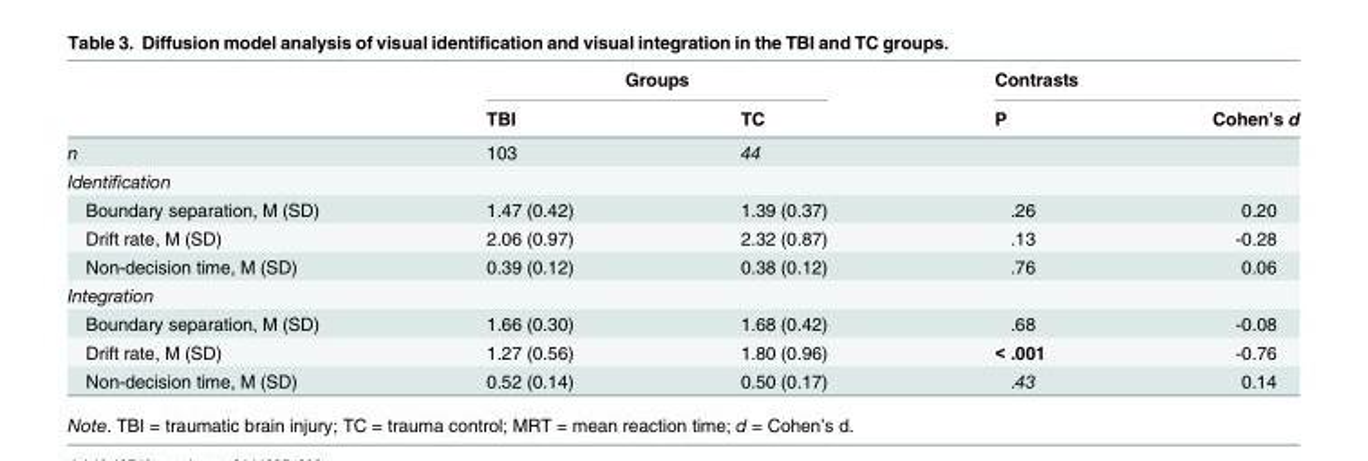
<table><thead><tr><td rowspan="2"></td><td colspan="2">Groups</td><td colspan="2">Contrasts</td></tr><tr><td>TBI</td><td>TC</td><td>P</td><td>Cohen’s d</td></tr></thead><tbody><tr><td>n</td><td>103</td><td>44</td><td></td><td></td></tr><tr><td colspan="5">Identification</td></tr><tr><td>Boundary separation, M (SD)</td><td>1.47 (0.42)</td><td>1.39 (0.37)</td><td>.26</td><td>0.20</td></tr><tr><td>Drift rate, M (SD)</td><td>2.06 (0.97)</td><td>2.32 (0.87)</td><td>.13</td><td>-0.28</td></tr><tr><td>Non-decision time, M (SD)</td><td>0.39 (0.12)</td><td>0.38 (0.12)</td><td>.76</td><td>0.06</td></tr><tr><td colspan="5">Integration</td></tr><tr><td>Boundary separation, M (SD)</td><td>1.66 (0.30)</td><td>1.68 (0.42)</td><td>.68</td><td>-0.08</td></tr><tr><td>Drift rate, M (SD)</td><td>1.27 (0.56)</td><td>1.80 (0.96)</td><td>&lt; .001</td><td>-0.76</td></tr><tr><td>Non-decision time, M (SD)</td><td>0.52 (0.14)</td><td>0.50 (0.17)</td><td>.43</td><td>0.14</td></tr></tbody></table>